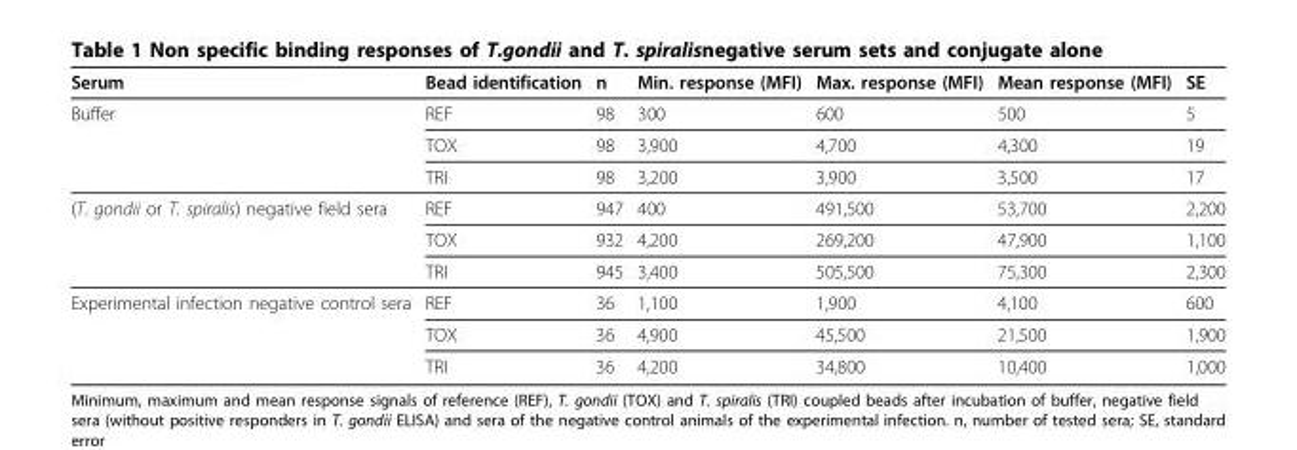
<table><thead><tr><td>Serum</td><td>Bead identification</td><td>n</td><td>Min. response (MFI)</td><td>Max. response (MFI)</td><td>Mean response (MFI)</td><td>SE</td></tr></thead><tbody><tr><td rowspan="3">Buffer</td><td>REF</td><td>98</td><td>300</td><td>600</td><td>500</td><td>5</td></tr><tr><td>TOX</td><td>98</td><td>3,900</td><td>4,700</td><td>4,300</td><td>19</td></tr><tr><td>TRI</td><td>98</td><td>3,200</td><td>3,900</td><td>3,500</td><td>17</td></tr><tr><td rowspan="3">(T. gondii or T. spiralis) negative field sera</td><td>REF</td><td>947</td><td>400</td><td>491,500</td><td>53,700</td><td>2,200</td></tr><tr><td>TOX</td><td>932</td><td>4,200</td><td>269,200</td><td>47,900</td><td>1,100</td></tr><tr><td>TRI</td><td>945</td><td>3,400</td><td>505,500</td><td>75,300</td><td>2,300</td></tr><tr><td rowspan="3">Experimental infection negative control sera</td><td>REF</td><td>36</td><td>1,100</td><td>1,900</td><td>4,100</td><td>600</td></tr><tr><td>TOX</td><td>36</td><td>4,900</td><td>45,500</td><td>21,500</td><td>1,900</td></tr><tr><td>TRI</td><td>36</td><td>4,200</td><td>34,800</td><td>10,400</td><td>1,000</td></tr></tbody></table>